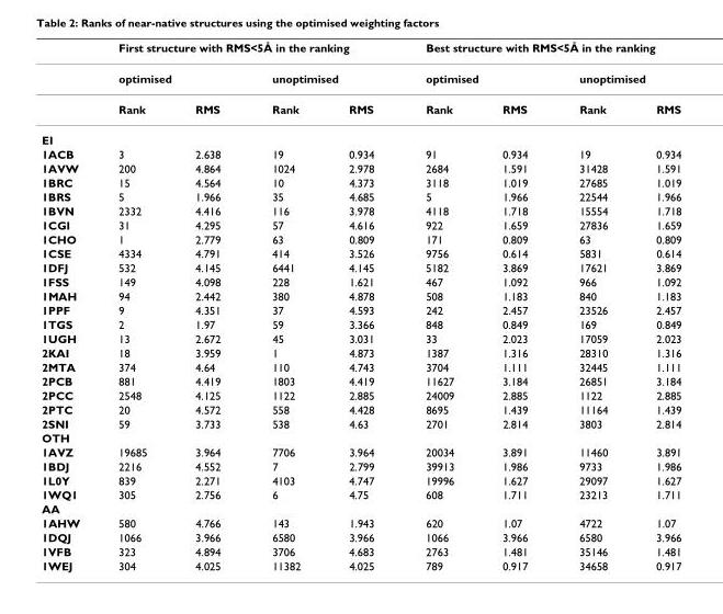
<table><thead><tr><td rowspan="3"></td><td colspan="4">First structure with RMS&lt;5Å in the ranking</td><td colspan="4">Best structure with RMS&lt;5Å in the ranking</td></tr><tr><td colspan="2">optimised</td><td colspan="2">unoptimised</td><td colspan="2">optimised</td><td colspan="2">unoptimised</td></tr><tr><td>Rank</td><td>RMS</td><td>Rank</td><td>RMS</td><td>Rank</td><td>RMS</td><td>Rank</td><td>RMS</td></tr></thead><tbody><tr><td colspan="9">EI</td></tr><tr><td>1ACB</td><td>3</td><td>2.638</td><td>19</td><td>0.934</td><td>91</td><td>0.934</td><td>19</td><td>0.934</td></tr><tr><td>1AVW</td><td>200</td><td>4.864</td><td>1024</td><td>2.978</td><td>2684</td><td>1.591</td><td>31428</td><td>1.591</td></tr><tr><td>1BRC</td><td>15</td><td>4.564</td><td>10</td><td>4.373</td><td>3118</td><td>1.019</td><td>27685</td><td>1.019</td></tr><tr><td>1BRS</td><td>5</td><td>1.966</td><td>35</td><td>4.685</td><td>5</td><td>1.966</td><td>22544</td><td>1.966</td></tr><tr><td>1BVN</td><td>2332</td><td>4.416</td><td>116</td><td>3.978</td><td>4118</td><td>1.718</td><td>15554</td><td>1.718</td></tr><tr><td>1CGI</td><td>31</td><td>4.295</td><td>57</td><td>4.616</td><td>922</td><td>1.659</td><td>27836</td><td>1.659</td></tr><tr><td>1CHO</td><td>1</td><td>2.779</td><td>63</td><td>0.809</td><td>171</td><td>0.809</td><td>63</td><td>0.809</td></tr><tr><td>1CSE</td><td>4334</td><td>4.791</td><td>414</td><td>3.526</td><td>9756</td><td>0.614</td><td>5831</td><td>0.614</td></tr><tr><td>1DFJ</td><td>532</td><td>4.145</td><td>6441</td><td>4.145</td><td>5182</td><td>3.869</td><td>17621</td><td>3.869</td></tr><tr><td>1FSS</td><td>149</td><td>4.098</td><td>228</td><td>1.621</td><td>467</td><td>1.092</td><td>966</td><td>1.092</td></tr><tr><td>1MAH</td><td>94</td><td>2.442</td><td>380</td><td>4.878</td><td>508</td><td>1.183</td><td>840</td><td>1.183</td></tr><tr><td>1PPF</td><td>9</td><td>4.351</td><td>37</td><td>4.593</td><td>242</td><td>2.457</td><td>23526</td><td>2.457</td></tr><tr><td>1TGS</td><td>2</td><td>1.97</td><td>59</td><td>3.366</td><td>848</td><td>0.849</td><td>169</td><td>0.849</td></tr><tr><td>1UGH</td><td>13</td><td>2.672</td><td>45</td><td>3.031</td><td>33</td><td>2.023</td><td>17059</td><td>2.023</td></tr><tr><td>2KAI</td><td>18</td><td>3.959</td><td>1</td><td>4.873</td><td>1387</td><td>1.316</td><td>28310</td><td>1.316</td></tr><tr><td>2MTA</td><td>374</td><td>4.64</td><td>110</td><td>4.743</td><td>3704</td><td>1.111</td><td>32445</td><td>1.111</td></tr><tr><td>2PCB</td><td>881</td><td>4.419</td><td>1803</td><td>4.419</td><td>11627</td><td>3.184</td><td>26851</td><td>3.184</td></tr><tr><td>2PCC</td><td>2548</td><td>4.125</td><td>1122</td><td>2.885</td><td>24009</td><td>2.885</td><td>1122</td><td>2.885</td></tr><tr><td>2PTC</td><td>20</td><td>4.572</td><td>558</td><td>4.428</td><td>8695</td><td>1.439</td><td>11164</td><td>1.439</td></tr><tr><td>2SNI</td><td>59</td><td>3.733</td><td>538</td><td>4.63</td><td>2701</td><td>2.814</td><td>3803</td><td>2.814</td></tr><tr><td colspan="9">OTH</td></tr><tr><td>1AVZ</td><td>19685</td><td>3.964</td><td>7706</td><td>3.964</td><td>20034</td><td>3.891</td><td>11460</td><td>3.891</td></tr><tr><td>1BDJ</td><td>2216</td><td>4.552</td><td>7</td><td>2.799</td><td>39913</td><td>1.986</td><td>9733</td><td>1.986</td></tr><tr><td>1L0Y</td><td>839</td><td>2.271</td><td>4103</td><td>4.747</td><td>19996</td><td>1.627</td><td>29097</td><td>1.627</td></tr><tr><td>1WQ1</td><td>305</td><td>2.756</td><td>6</td><td>4.75</td><td>608</td><td>1.711</td><td>23213</td><td>1.711</td></tr><tr><td colspan="9">AA</td></tr><tr><td>1AHW</td><td>580</td><td>4.766</td><td>143</td><td>1.943</td><td>620</td><td>1.07</td><td>4722</td><td>1.07</td></tr><tr><td>1DQJ</td><td>1066</td><td>3.966</td><td>6580</td><td>3.966</td><td>1066</td><td>3.966</td><td>6580</td><td>3.966</td></tr><tr><td>1VFB</td><td>323</td><td>4.894</td><td>3706</td><td>4.683</td><td>2763</td><td>1.481</td><td>35146</td><td>1.481</td></tr><tr><td>1WEJ</td><td>304</td><td>4.025</td><td>11382</td><td>4.025</td><td>789</td><td>0.917</td><td>34658</td><td>0.917</td></tr></tbody></table>